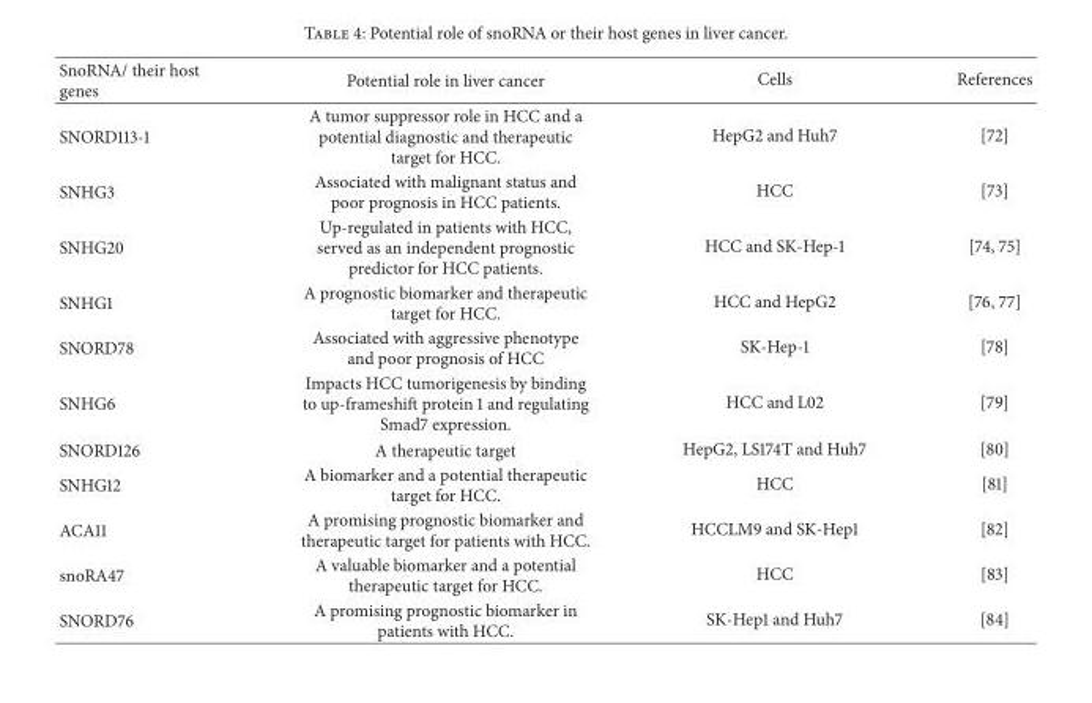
<table><thead><tr><td>SnoRNA/ their host genes</td><td>Potential role in liver cancer</td><td>Cells</td><td>References</td></tr></thead><tbody><tr><td>SNORD113-1</td><td>A tumor suppressor role in HCC and a potential diagnostic and therapeutic target for HCC.</td><td>HepG2 and Huh7</td><td>[72]</td></tr><tr><td>SNHG3</td><td>Associated with malignant status and poor prognosis in HCC patients.</td><td>HCC</td><td>[73]</td></tr><tr><td>SNHG20</td><td>Up-regulated in patients with HCC, served as an independent prognostic predictor for HCC patients.</td><td>HCC and SK-Hep-1</td><td>[74, 75]</td></tr><tr><td>SNHG1</td><td>A prognostic biomarker and therapeutic target for HCC.</td><td>HCC and HepG2</td><td>[76, 77]</td></tr><tr><td>SNORD78</td><td>Associated with aggressive phenotype and poor prognosis of HCC</td><td>SK-Hep-1</td><td>[78]</td></tr><tr><td>SNHG6</td><td>Impacts HCC tumorigenesis by binding to up-frameshift protein 1 and regulating Smad7 expression.</td><td>HCC and L02</td><td>[79]</td></tr><tr><td>SNORD126</td><td>A therapeutic target</td><td>HepG2, LS174T and Huh7</td><td>[80]</td></tr><tr><td>SNHG12</td><td>A biomarker and a potential therapeutic target for HCC.</td><td>HCC</td><td>[81]</td></tr><tr><td>ACA11</td><td>A promising prognostic biomarker and therapeutic target for patients with HCC.</td><td>HCCLM9 and SK-Hep1</td><td>[82]</td></tr><tr><td>snoRA47</td><td>A valuable biomarker and a potential therapeutic target for HCC.</td><td>HCC</td><td>[83]</td></tr><tr><td>SNORD76</td><td>A promising prognostic biomarker in patients with HCC.</td><td>SK-Hep1 and Huh7</td><td>[84]</td></tr></tbody></table>